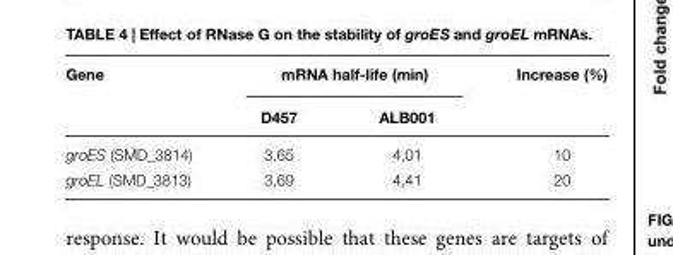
<table><thead><tr><td rowspan="2">Gene</td><td colspan="2">mRNA half-life (min)</td><td rowspan="2">Increase (%)</td></tr><tr><td>D457</td><td>ALB001</td></tr></thead><tbody><tr><td>groES (SMD_3814)</td><td>3,65</td><td>4,01</td><td>10</td></tr><tr><td>groEL (SMD_3813)</td><td>3,69</td><td>4,41</td><td>20</td></tr></tbody></table>